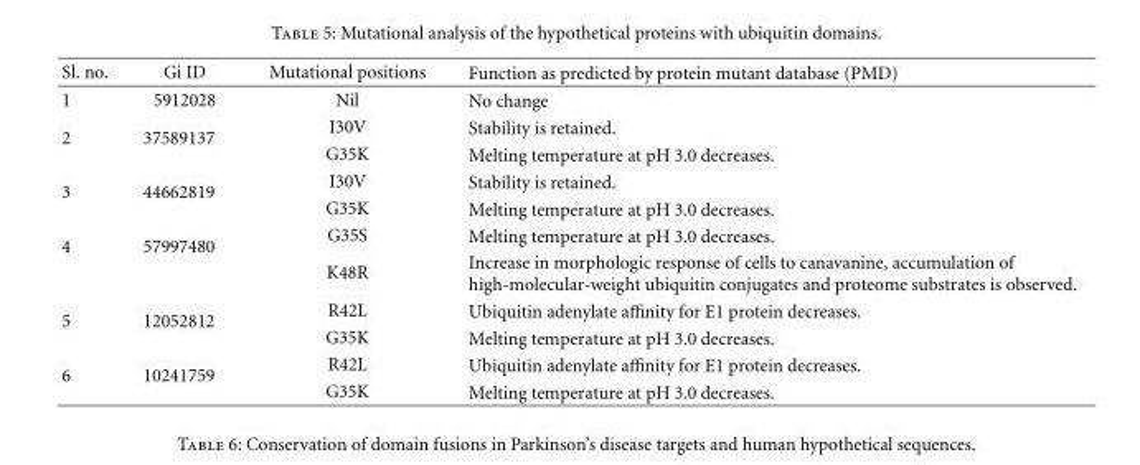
<table><thead><tr><td>Sl. no.</td><td>Gi ID</td><td>Mutational positions</td><td>Function as predicted by protein mutant database (PMD)</td></tr></thead><tbody><tr><td>1</td><td>5912028</td><td>Nil</td><td>No change</td></tr><tr><td rowspan="2">2</td><td rowspan="2">37589137</td><td>I30V</td><td>Stability is retained.</td></tr><tr><td>G35K</td><td>Melting temperature at pH 3.0 decreases.</td></tr><tr><td rowspan="2">3</td><td rowspan="2">44662819</td><td>I30V</td><td>Stability is retained.</td></tr><tr><td>G35K</td><td>Melting temperature at pH 3.0 decreases.</td></tr><tr><td rowspan="2">4</td><td rowspan="2">57997480</td><td>G35S</td><td>Melting temperature at pH 3.0 decreases.</td></tr><tr><td>K48R</td><td>Increase in morphologic response of cells to canavanine, accumulation of high-molecular-weight ubiquitin conjugates and proteome substrates is observed.</td></tr><tr><td rowspan="2">5</td><td rowspan="2">12052812</td><td>R42L</td><td>Ubiquitin adenylate affinity for E1 protein decreases.</td></tr><tr><td>G35K</td><td>Melting temperature at pH 3.0 decreases.</td></tr><tr><td rowspan="2">6</td><td rowspan="2">10241759</td><td>R42L</td><td>Ubiquitin adenylate affinity for E1 protein decreases.</td></tr><tr><td>G35K</td><td>Melting temperature at pH 3.0 decreases.</td></tr></tbody></table>